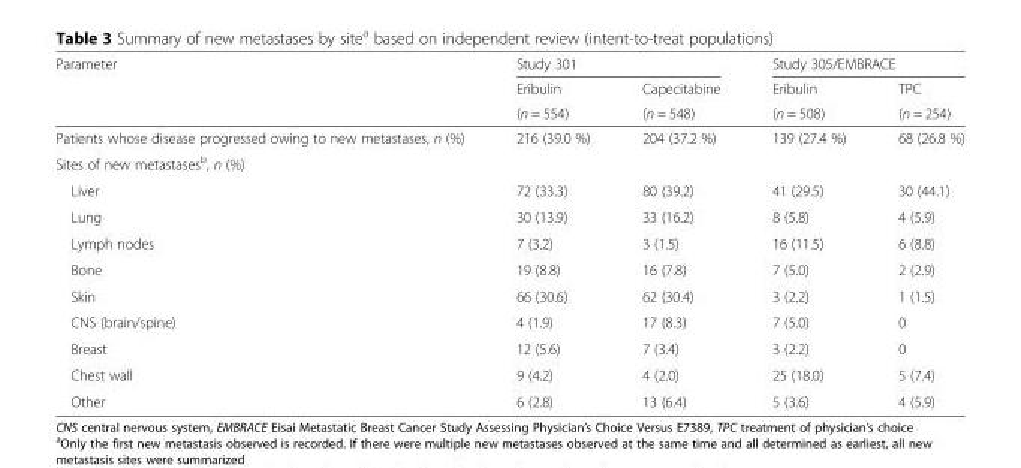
<table><thead><tr><td rowspan="3">Parameter</td><td colspan="2">Study 301</td><td colspan="2">Study 305/EMBRACE</td></tr><tr><td rowspan="2">Eribulin (n = 554)</td><td rowspan="2">Capecitabine (n = 548)</td><td rowspan="2">Eribulin (n = 508)</td><td rowspan="2">TPC (n = 254)</td></tr><tr></tr></thead><tbody><tr><td>Patients whose disease progressed owing to new metastases, n (%)</td><td>216 (39.0 %)</td><td>204 (37.2 %)</td><td>139 (27.4 %)</td><td>68 (26.8 %)</td></tr><tr><td colspan="5">Sites of new metastases<sup>b</sup>, n (%)</td></tr><tr><td>Liver</td><td>72 (33.3)</td><td>80 (39.2)</td><td>41 (29.5)</td><td>30 (44.1)</td></tr><tr><td>Lung</td><td>30 (13.9)</td><td>33 (16.2)</td><td>8 (5.8)</td><td>4 (5.9)</td></tr><tr><td>Lymph nodes</td><td>7 (3.2)</td><td>3 (1.5)</td><td>16 (11.5)</td><td>6 (8.8)</td></tr><tr><td>Bone</td><td>19 (8.8)</td><td>16 (7.8)</td><td>7 (5.0)</td><td>2 (2.9)</td></tr><tr><td>Skin</td><td>66 (30.6)</td><td>62 (30.4)</td><td>3 (2.2)</td><td>1 (1.5)</td></tr><tr><td>CNS (brain/spine)</td><td>4 (1.9)</td><td>17 (8.3)</td><td>7 (5.0)</td><td>0</td></tr><tr><td>Breast</td><td>12 (5.6)</td><td>7 (3.4)</td><td>3 (2.2)</td><td>0</td></tr><tr><td>Chest wall</td><td>9 (4.2)</td><td>4 (2.0)</td><td>25 (18.0)</td><td>5 (7.4)</td></tr><tr><td>Other</td><td>6 (2.8)</td><td>13 (6.4)</td><td>5 (3.6)</td><td>4 (5.9)</td></tr></tbody></table>